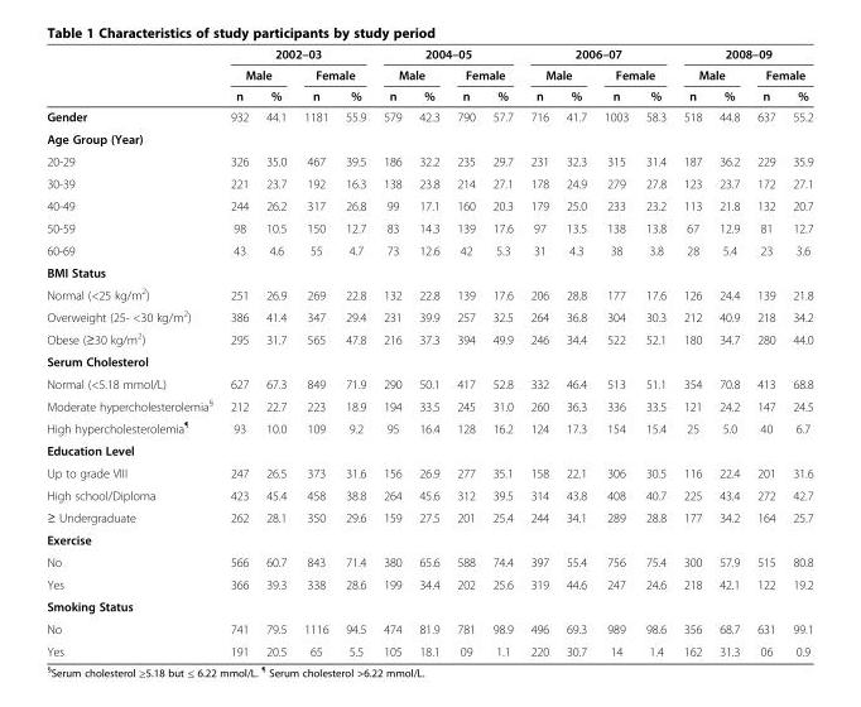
<table><thead><tr><td rowspan="3"></td><td colspan="4">2002–03</td><td colspan="4">2004–05</td><td colspan="4">2006–07</td><td colspan="4">2008–09</td></tr><tr><td colspan="2">Male</td><td colspan="2">Female</td><td colspan="2">Male</td><td colspan="2">Female</td><td colspan="2">Male</td><td colspan="2">Female</td><td colspan="2">Male</td><td colspan="2">Female</td></tr><tr><td>n</td><td>%</td><td>n</td><td>%</td><td>n</td><td>%</td><td>n</td><td>%</td><td>n</td><td>%</td><td>n</td><td>%</td><td>n</td><td>%</td><td>n</td><td>%</td></tr></thead><tbody><tr><td>Gender</td><td>932</td><td>44.1</td><td>1181</td><td>55.9</td><td>579</td><td>42.3</td><td>790</td><td>57.7</td><td>716</td><td>41.7</td><td>1003</td><td>58.3</td><td>518</td><td>44.8</td><td>637</td><td>55.2</td></tr><tr><td colspan="17">Age Group (Year)</td></tr><tr><td>20-29</td><td>326</td><td>35.0</td><td>467</td><td>39.5</td><td>186</td><td>32.2</td><td>235</td><td>29.7</td><td>231</td><td>32.3</td><td>315</td><td>31.4</td><td>187</td><td>36.2</td><td>229</td><td>35.9</td></tr><tr><td>30-39</td><td>221</td><td>23.7</td><td>192</td><td>16.3</td><td>138</td><td>23.8</td><td>214</td><td>27.1</td><td>178</td><td>24.9</td><td>279</td><td>27.8</td><td>123</td><td>23.7</td><td>172</td><td>27.1</td></tr><tr><td>40-49</td><td>244</td><td>26.2</td><td>317</td><td>26.8</td><td>99</td><td>17.1</td><td>160</td><td>20.3</td><td>179</td><td>25.0</td><td>233</td><td>23.2</td><td>113</td><td>21.8</td><td>132</td><td>20.7</td></tr><tr><td>50-59</td><td>98</td><td>10.5</td><td>150</td><td>12.7</td><td>83</td><td>14.3</td><td>139</td><td>17.6</td><td>97</td><td>13.5</td><td>138</td><td>13.8</td><td>67</td><td>12.9</td><td>81</td><td>12.7</td></tr><tr><td>60-69</td><td>43</td><td>4.6</td><td>55</td><td>4.7</td><td>73</td><td>12.6</td><td>42</td><td>5.3</td><td>31</td><td>4.3</td><td>38</td><td>3.8</td><td>28</td><td>5.4</td><td>23</td><td>3.6</td></tr><tr><td colspan="17">BMI Status</td></tr><tr><td>Normal (&lt;25 kg/m<sup>2</sup>)</td><td>251</td><td>26.9</td><td>269</td><td>22.8</td><td>132</td><td>22.8</td><td>139</td><td>17.6</td><td>206</td><td>28.8</td><td>177</td><td>17.6</td><td>126</td><td>24.4</td><td>139</td><td>21.8</td></tr><tr><td>Overweight (25- &lt;30 kg/m<sup>2</sup>)</td><td>386</td><td>41.4</td><td>347</td><td>29.4</td><td>231</td><td>39.9</td><td>257</td><td>32.5</td><td>264</td><td>36.8</td><td>304</td><td>30.3</td><td>212</td><td>40.9</td><td>218</td><td>34.2</td></tr><tr><td>Obese (≥30 kg/m<sup>2</sup>)</td><td>295</td><td>31.7</td><td>565</td><td>47.8</td><td>216</td><td>37.3</td><td>394</td><td>49.9</td><td>246</td><td>34.4</td><td>522</td><td>52.1</td><td>180</td><td>34.7</td><td>280</td><td>44.0</td></tr><tr><td colspan="17">Serum Cholesterol</td></tr><tr><td>Normal (&lt;5.18 mmol/L)</td><td>627</td><td>67.3</td><td>849</td><td>71.9</td><td>290</td><td>50.1</td><td>417</td><td>52.8</td><td>332</td><td>46.4</td><td>513</td><td>51.1</td><td>354</td><td>70.8</td><td>413</td><td>68.8</td></tr><tr><td>Moderate hypercholesterolemia<sup>§</sup></td><td>212</td><td>22.7</td><td>223</td><td>18.9</td><td>194</td><td>33.5</td><td>245</td><td>31.0</td><td>260</td><td>36.3</td><td>336</td><td>33.5</td><td>121</td><td>24.2</td><td>147</td><td>24.5</td></tr><tr><td>High hypercholesterolemia<sup>¶</sup></td><td>93</td><td>10.0</td><td>109</td><td>9.2</td><td>95</td><td>16.4</td><td>128</td><td>16.2</td><td>124</td><td>17.3</td><td>154</td><td>15.4</td><td>25</td><td>5.0</td><td>40</td><td>6.7</td></tr><tr><td colspan="17">Education Level</td></tr><tr><td>Up to grade VIII</td><td>247</td><td>26.5</td><td>373</td><td>31.6</td><td>156</td><td>26.9</td><td>277</td><td>35.1</td><td>158</td><td>22.1</td><td>306</td><td>30.5</td><td>116</td><td>22.4</td><td>201</td><td>31.6</td></tr><tr><td>High school/Diploma</td><td>423</td><td>45.4</td><td>458</td><td>38.8</td><td>264</td><td>45.6</td><td>312</td><td>39.5</td><td>314</td><td>43.8</td><td>408</td><td>40.7</td><td>225</td><td>43.4</td><td>272</td><td>42.7</td></tr><tr><td>≥ Undergraduate</td><td>262</td><td>28.1</td><td>350</td><td>29.6</td><td>159</td><td>27.5</td><td>201</td><td>25.4</td><td>244</td><td>34.1</td><td>289</td><td>28.8</td><td>177</td><td>34.2</td><td>164</td><td>25.7</td></tr><tr><td colspan="17">Exercise</td></tr><tr><td>No</td><td>566</td><td>60.7</td><td>843</td><td>71.4</td><td>380</td><td>65.6</td><td>588</td><td>74.4</td><td>397</td><td>55.4</td><td>756</td><td>75.4</td><td>300</td><td>57.9</td><td>515</td><td>80.8</td></tr><tr><td>Yes</td><td>366</td><td>39.3</td><td>338</td><td>28.6</td><td>199</td><td>34.4</td><td>202</td><td>25.6</td><td>319</td><td>44.6</td><td>247</td><td>24.6</td><td>218</td><td>42.1</td><td>122</td><td>19.2</td></tr><tr><td colspan="17">Smoking Status</td></tr><tr><td>No</td><td>741</td><td>79.5</td><td>1116</td><td>94.5</td><td>474</td><td>81.9</td><td>781</td><td>98.9</td><td>496</td><td>69.3</td><td>989</td><td>98.6</td><td>356</td><td>68.7</td><td>631</td><td>99.1</td></tr><tr><td>Yes</td><td>191</td><td>20.5</td><td>65</td><td>5.5</td><td>105</td><td>18.1</td><td>09</td><td>1.1</td><td>220</td><td>30.7</td><td>14</td><td>1.4</td><td>162</td><td>31.3</td><td>06</td><td>0.9</td></tr></tbody></table>